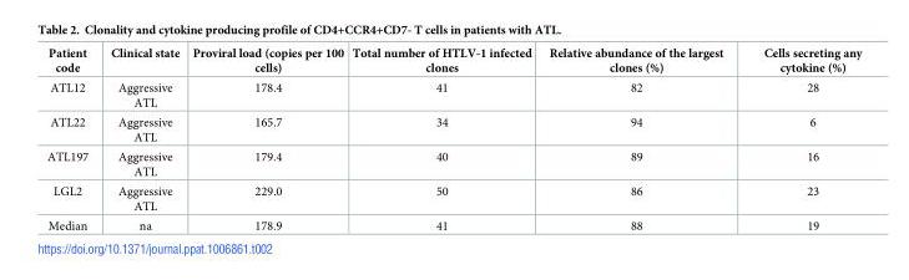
<table><thead><tr><td>Patient code</td><td>Clinical state</td><td>Proviral load (copies per 100 cells)</td><td>Total number of HTLV-1 infected clones</td><td>Relative abundance of the largest clones (%)</td><td>Cells secreting any cytokine (%)</td></tr></thead><tbody><tr><td>ATL12</td><td>Aggressive ATL</td><td>178.4</td><td>41</td><td>82</td><td>28</td></tr><tr><td>ATL22</td><td>Aggressive ATL</td><td>165.7</td><td>34</td><td>94</td><td>6</td></tr><tr><td>ATL197</td><td>Aggressive ATL</td><td>179.4</td><td>40</td><td>89</td><td>16</td></tr><tr><td>LGL2</td><td>Aggressive ATL</td><td>229.0</td><td>50</td><td>86</td><td>23</td></tr><tr><td>Median</td><td>na</td><td>178.9</td><td>41</td><td>88</td><td>19</td></tr></tbody></table>